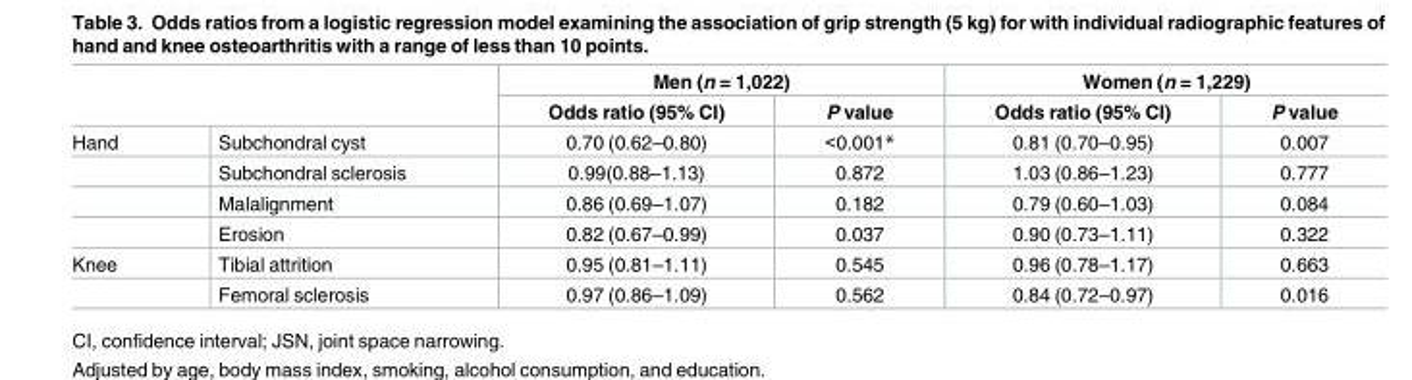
<table><thead><tr><td rowspan="2"></td><td rowspan="2"></td><td colspan="2">Men (n = 1,022)</td><td colspan="2">Women (n = 1,229)</td></tr><tr><td>Odds ratio (95% CI)</td><td>P value</td><td>Odds ratio (95% CI)</td><td>P value</td></tr></thead><tbody><tr><td rowspan="4">Hand</td><td>Subchondral cyst</td><td>0.70 (0.62–0.80)</td><td>&lt;0.001*</td><td>0.81 (0.70–0.95)</td><td>0.007</td></tr><tr><td>Subchondral sclerosis</td><td>0.99(0.88–1.13)</td><td>0.872</td><td>1.03 (0.86–1.23)</td><td>0.777</td></tr><tr><td>Malalignment</td><td>0.86 (0.69–1.07)</td><td>0.182</td><td>0.79 (0.60–1.03)</td><td>0.084</td></tr><tr><td>Erosion</td><td>0.82 (0.67–0.99)</td><td>0.037</td><td>0.90 (0.73–1.11)</td><td>0.322</td></tr><tr><td rowspan="2">Knee</td><td>Tibial attrition</td><td>0.95 (0.81–1.11)</td><td>0.545</td><td>0.96 (0.78–1.17)</td><td>0.663</td></tr><tr><td>Femoral sclerosis</td><td>0.97 (0.86–1.09)</td><td>0.562</td><td>0.84 (0.72–0.97)</td><td>0.016</td></tr></tbody></table>